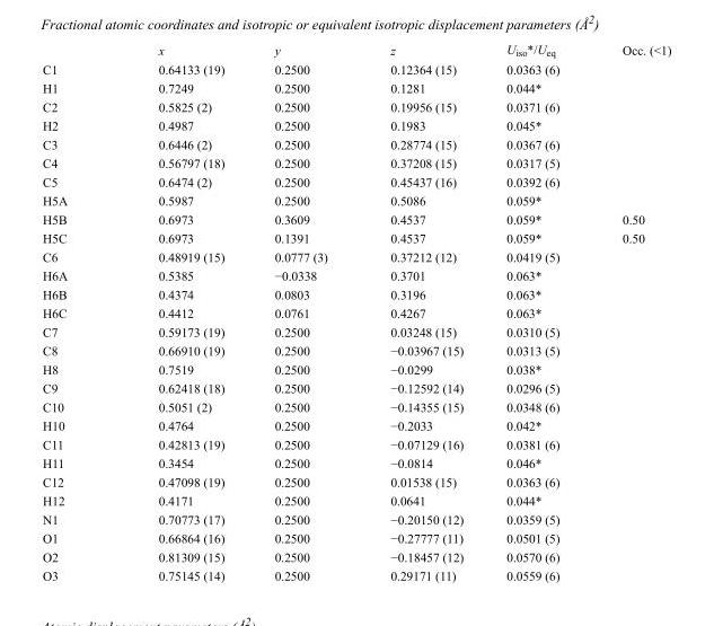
<table><thead><tr><td></td><td>x</td><td>y</td><td>z</td><td>U<sub>iso</sub>*/U<sub>eq</sub></td><td>Occ. (&lt;1)</td></tr></thead><tbody><tr><td>C1</td><td>0.64133 (19)</td><td>0.2500</td><td>0.12364 (15)</td><td>0.0363 (6)</td><td></td></tr><tr><td>H1</td><td>0.7249</td><td>0.2500</td><td>0.1281</td><td>0.044*</td><td></td></tr><tr><td>C2</td><td>0.5825 (2)</td><td>0.2500</td><td>0.19956 (15)</td><td>0.0371 (6)</td><td></td></tr><tr><td>H2</td><td>0.4987</td><td>0.2500</td><td>0.1983</td><td>0.045*</td><td></td></tr><tr><td>C3</td><td>0.6446 (2)</td><td>0.2500</td><td>0.28774 (15)</td><td>0.0367 (6)</td><td></td></tr><tr><td>C4</td><td>0.56797 (18)</td><td>0.2500</td><td>0.37208 (15)</td><td>0.0317 (5)</td><td></td></tr><tr><td>C5</td><td>0.6474 (2)</td><td>0.2500</td><td>0.45437 (16)</td><td>0.0392 (6)</td><td></td></tr><tr><td>H5A</td><td>0.5987</td><td>0.2500</td><td>0.5086</td><td>0.059*</td><td></td></tr><tr><td>H5B</td><td>0.6973</td><td>0.3609</td><td>0.4537</td><td>0.059*</td><td>0.50</td></tr><tr><td>H5C</td><td>0.6973</td><td>0.1391</td><td>0.4537</td><td>0.059*</td><td>0.50</td></tr><tr><td>C6</td><td>0.48919 (15)</td><td>0.0777 (3)</td><td>0.37212 (12)</td><td>0.0419 (5)</td><td></td></tr><tr><td>H6A</td><td>0.5385</td><td>−0.0338</td><td>0.3701</td><td>0.063*</td><td></td></tr><tr><td>H6B</td><td>0.4374</td><td>0.0803</td><td>0.3196</td><td>0.063*</td><td></td></tr><tr><td>H6C</td><td>0.4412</td><td>0.0761</td><td>0.4267</td><td>0.063*</td><td></td></tr><tr><td>C7</td><td>0.59173 (19)</td><td>0.2500</td><td>0.03248 (15)</td><td>0.0310 (5)</td><td></td></tr><tr><td>C8</td><td>0.66910 (19)</td><td>0.2500</td><td>−0.03967 (15)</td><td>0.0313 (5)</td><td></td></tr><tr><td>H8</td><td>0.7519</td><td>0.2500</td><td>−0.0299</td><td>0.038*</td><td></td></tr><tr><td>C9</td><td>0.62418 (18)</td><td>0.2500</td><td>−0.12592 (14)</td><td>0.0296 (5)</td><td></td></tr><tr><td>C10</td><td>0.5051 (2)</td><td>0.2500</td><td>−0.14355 (15)</td><td>0.0348 (6)</td><td></td></tr><tr><td>H10</td><td>0.4764</td><td>0.2500</td><td>−0.2033</td><td>0.042*</td><td></td></tr><tr><td>C11</td><td>0.42813 (19)</td><td>0.2500</td><td>−0.07129 (16)</td><td>0.0381 (6)</td><td></td></tr><tr><td>H11</td><td>0.3454</td><td>0.2500</td><td>−0.0814</td><td>0.046*</td><td></td></tr><tr><td>C12</td><td>0.47098 (19)</td><td>0.2500</td><td>0.01538 (15)</td><td>0.0363 (6)</td><td></td></tr><tr><td>H12</td><td>0.4171</td><td>0.2500</td><td>0.0641</td><td>0.044*</td><td></td></tr><tr><td>N1</td><td>0.70773 (17)</td><td>0.2500</td><td>−0.20150 (12)</td><td>0.0359 (5)</td><td></td></tr><tr><td>O1</td><td>0.66864 (16)</td><td>0.2500</td><td>−0.27777 (11)</td><td>0.0501 (5)</td><td></td></tr><tr><td>O2</td><td>0.81309 (15)</td><td>0.2500</td><td>−0.18457 (12)</td><td>0.0570 (6)</td><td></td></tr><tr><td>O3</td><td>0.75145 (14)</td><td>0.2500</td><td>0.29171 (11)</td><td>0.0559 (6)</td><td></td></tr></tbody></table>